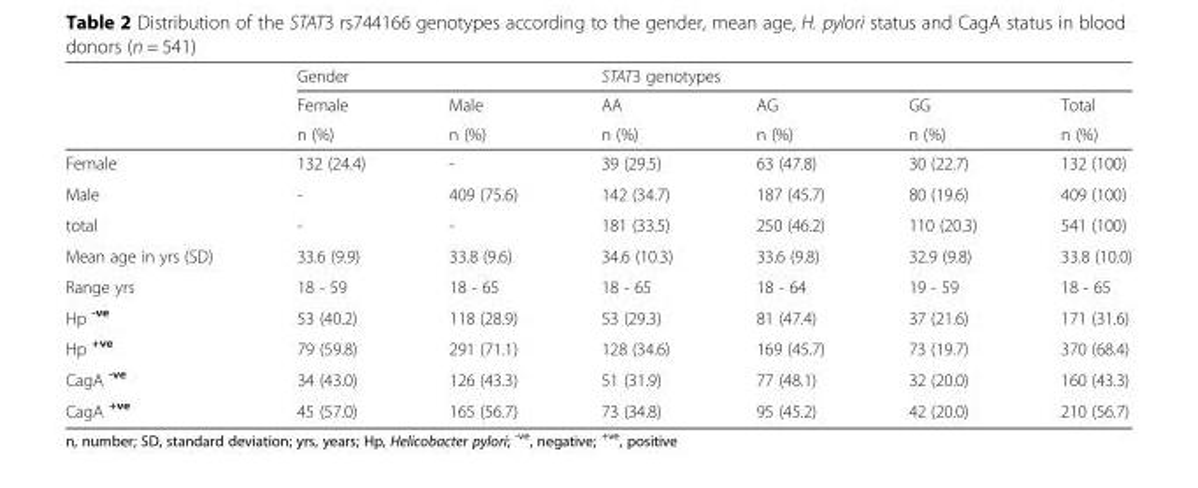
<table><thead><tr><td rowspan="3"></td><td colspan="2">Gender</td><td colspan="4">STAT3 genotypes</td></tr><tr><td rowspan="2">Female n (%)</td><td rowspan="2">Male n (%)</td><td rowspan="2">AA n (%)</td><td rowspan="2">AG n (%)</td><td rowspan="2">GG n (%)</td><td rowspan="2">Total n (%)</td></tr><tr></tr></thead><tbody><tr><td>Female</td><td>132 (24.4)</td><td>-</td><td>39 (29.5)</td><td>63 (47.8)</td><td>30 (22.7)</td><td>132 (100)</td></tr><tr><td>Male</td><td>-</td><td>409 (75.6)</td><td>142 (34.7)</td><td>187 (45.7)</td><td>80 (19.6)</td><td>409 (100)</td></tr><tr><td>total</td><td>-</td><td>-</td><td>181 (33.5)</td><td>250 (46.2)</td><td>110 (20.3)</td><td>541 (100)</td></tr><tr><td>Mean age in yrs (SD)</td><td>33.6 (9.9)</td><td>33.8 (9.6)</td><td>34.6 (10.3)</td><td>33.6 (9.8)</td><td>32.9 (9.8)</td><td>33.8 (10.0)</td></tr><tr><td>Range yrs</td><td>18 - 59</td><td>18 - 65</td><td>18 - 65</td><td>18 - 64</td><td>19 - 59</td><td>18 - 65</td></tr><tr><td>Hp <sup>-ve</sup></td><td>53 (40.2)</td><td>118 (28.9)</td><td>53 (29.3)</td><td>81 (47.4)</td><td>37 (21.6)</td><td>171 (31.6)</td></tr><tr><td>Hp <sup>+ve</sup></td><td>79 (59.8)</td><td>291 (71.1)</td><td>128 (34.6)</td><td>169 (45.7)</td><td>73 (19.7)</td><td>370 (68.4)</td></tr><tr><td>CagA <sup>-ve</sup></td><td>34 (43.0)</td><td>126 (43.3)</td><td>51 (31.9)</td><td>77 (48.1)</td><td>32 (20.0)</td><td>160 (43.3)</td></tr><tr><td>CagA <sup>+ve</sup></td><td>45 (57.0)</td><td>165 (56.7)</td><td>73 (34.8)</td><td>95 (45.2)</td><td>42 (20.0)</td><td>210 (56.7)</td></tr></tbody></table>